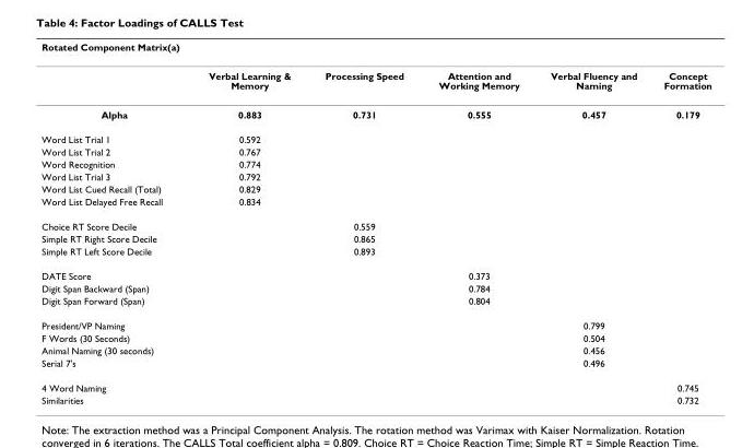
<table><thead><tr><td>Rotated Component Matrix(a)</td><td></td><td></td><td></td><td></td><td></td></tr></thead><tbody><tr><td></td><td>Verbal Learning &amp; Memory</td><td>Processing Speed</td><td>Attention and Working Memory</td><td>Verbal Fluency and Naming</td><td>Concept Formation</td></tr><tr><td>Alpha</td><td>0.883</td><td>0.731</td><td>0.555</td><td>0.457</td><td>0.179</td></tr><tr><td>Word List Trial 1</td><td>0.592</td><td></td><td></td><td></td><td></td></tr><tr><td>Word List Trial 2</td><td>0.767</td><td></td><td></td><td></td><td></td></tr><tr><td>Word Recognition</td><td>0.774</td><td></td><td></td><td></td><td></td></tr><tr><td>Word List Trial 3</td><td>0.792</td><td></td><td></td><td></td><td></td></tr><tr><td>Word List Cued Recall (Total)</td><td>0.829</td><td></td><td></td><td></td><td></td></tr><tr><td>Word List Delayed Free Recall</td><td>0.834</td><td></td><td></td><td></td><td></td></tr><tr><td>Choice RT Score Decile</td><td></td><td>0.559</td><td></td><td></td><td></td></tr><tr><td>Simple RT Right Score Decile</td><td></td><td>0.865</td><td></td><td></td><td></td></tr><tr><td>Simple RT Left Score Decile</td><td></td><td>0.893</td><td></td><td></td><td></td></tr><tr><td>DATE Score</td><td></td><td></td><td>0.373</td><td></td><td></td></tr><tr><td>Digit Span Backward (Span)</td><td></td><td></td><td>0.784</td><td></td><td></td></tr><tr><td>Digit Span Forward (Span)</td><td></td><td></td><td>0.804</td><td></td><td></td></tr><tr><td>President/VP Naming</td><td></td><td></td><td></td><td>0.799</td><td></td></tr><tr><td>F Words (30 Seconds)</td><td></td><td></td><td></td><td>0.504</td><td></td></tr><tr><td>Animal Naming (30 seconds)</td><td></td><td></td><td></td><td>0.456</td><td></td></tr><tr><td>Serial 7&#x27;s</td><td></td><td></td><td></td><td>0.496</td><td></td></tr><tr><td>4 Word Naming</td><td></td><td></td><td></td><td></td><td>0.745</td></tr><tr><td>Similarities</td><td></td><td></td><td></td><td></td><td>0.732</td></tr></tbody></table>